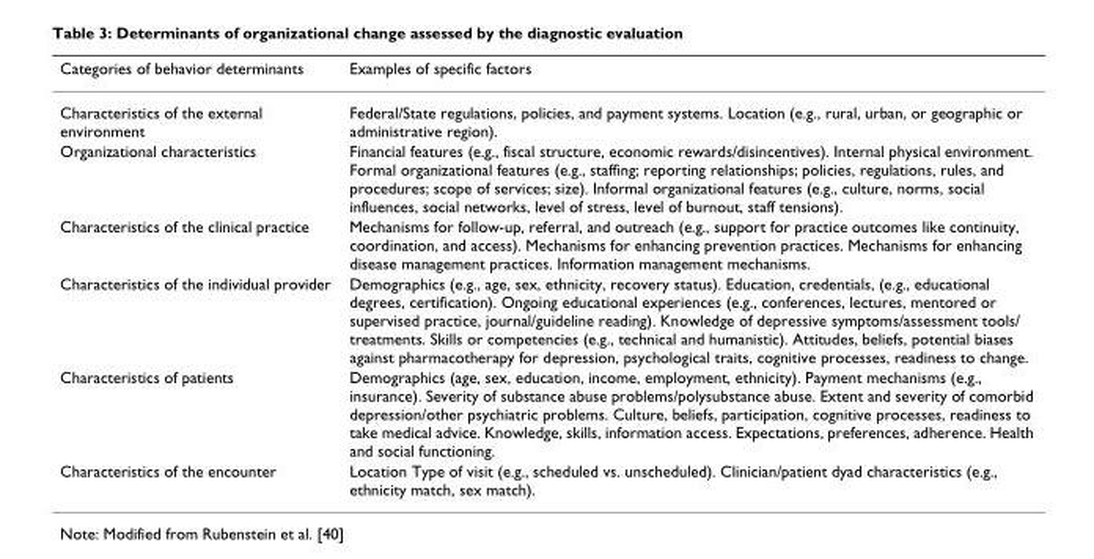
<table><thead><tr><td>Categories of behavior determinants</td><td>Examples of specific factors</td></tr></thead><tbody><tr><td>Characteristics of the external environment</td><td>Federal/State regulations, policies, and payment systems. Location (e.g., rural, urban, or geographic or administrative region).</td></tr><tr><td>Organizational characteristics</td><td>Financial features (e.g., fiscal structure, economic rewards/disincentives). Internal physical environment. Formal organizational features (e.g., staffing; reporting relationships; policies, regulations, rules, and procedures; scope of services; size). Informal organizational features (e.g., culture, norms, social influences, social networks, level of stress, level of burnout, staff tensions).</td></tr><tr><td>Characteristics of the clinical practice</td><td>Mechanisms for follow-up, referral, and outreach (e.g., support for practice outcomes like continuity, coordination, and access). Mechanisms for enhancing prevention practices. Mechanisms for enhancing disease management practices. Information management mechanisms.</td></tr><tr><td>Characteristics of the individual provider</td><td>Demographics (e.g., age, sex, ethnicity, recovery status). Education, credentials, (e.g., educational degrees, certification). Ongoing educational experiences (e.g., conferences, lectures, mentored or supervised practice, journal/guideline reading). Knowledge of depressive symptoms/assessment tools/ treatments. Skills or competencies (e.g., technical and humanistic). Attitudes, beliefs, potential biases against pharmacotherapy for depression, psychological traits, cognitive processes, readiness to change.</td></tr><tr><td>Characteristics of patients</td><td>Demographics (age, sex, education, income, employment, ethnicity). Payment mechanisms (e.g., insurance). Severity of substance abuse problems/polysubstance abuse. Extent and severity of comorbid depression/other psychiatric problems. Culture, beliefs, participation, cognitive processes, readiness to take medical advice. Knowledge, skills, information access. Expectations, preferences, adherence. Health and social functioning.</td></tr><tr><td>Characteristics of the encounter</td><td>Location Type of visit (e.g., scheduled vs. unscheduled). Clinician/patient dyad characteristics (e.g., ethnicity match, sex match).</td></tr></tbody></table>